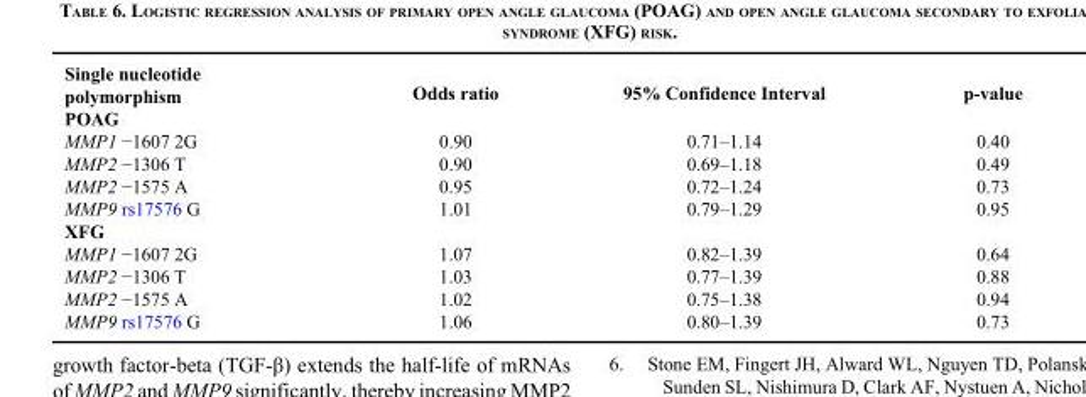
<table><thead><tr><td>Single nucleotide polymorphism</td><td>Odds ratio</td><td>95% Confidence Interval</td><td>p-value</td></tr></thead><tbody><tr><td colspan="4">POAG</td></tr><tr><td>MMP1 −1607 2G</td><td>0.90</td><td>0.71–1.14</td><td>0.40</td></tr><tr><td>MMP2 −1306 T</td><td>0.90</td><td>0.69–1.18</td><td>0.49</td></tr><tr><td>MMP2 −1575 A</td><td>0.95</td><td>0.72–1.24</td><td>0.73</td></tr><tr><td>MMP9 rs17576 G</td><td>1.01</td><td>0.79–1.29</td><td>0.95</td></tr><tr><td colspan="4">XFG</td></tr><tr><td>MMP1 −1607 2G</td><td>1.07</td><td>0.82–1.39</td><td>0.64</td></tr><tr><td>MMP2 −1306 T</td><td>1.03</td><td>0.77–1.39</td><td>0.88</td></tr><tr><td>MMP2 −1575 A</td><td>1.02</td><td>0.75–1.38</td><td>0.94</td></tr><tr><td>MMP9 rs17576 G</td><td>1.06</td><td>0.80–1.39</td><td>0.73</td></tr></tbody></table>